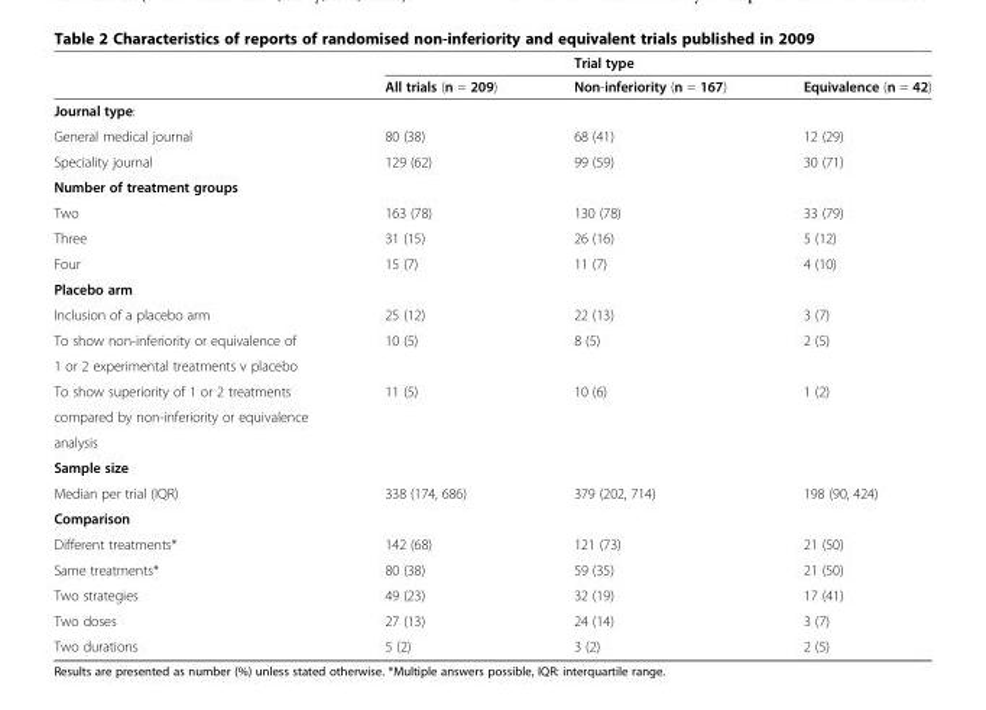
<table><thead><tr><td rowspan="2"></td><td rowspan="2">All trials (n = 209)</td><td colspan="2">Trial type</td></tr><tr><td>Non-inferiority (n = 167)</td><td>Equivalence (n = 42)</td></tr></thead><tbody><tr><td colspan="4">Journal type:</td></tr><tr><td>General medical journal</td><td>80 (38)</td><td>68 (41)</td><td>12 (29)</td></tr><tr><td>Speciality journal</td><td>129 (62)</td><td>99 (59)</td><td>30 (71)</td></tr><tr><td colspan="4">Number of treatment groups</td></tr><tr><td>Two</td><td>163 (78)</td><td>130 (78)</td><td>33 (79)</td></tr><tr><td>Three</td><td>31 (15)</td><td>26 (16)</td><td>5 (12)</td></tr><tr><td>Four</td><td>15 (7)</td><td>11 (7)</td><td>4 (10)</td></tr><tr><td colspan="4">Placebo arm</td></tr><tr><td>Inclusion of a placebo arm</td><td>25 (12)</td><td>22 (13)</td><td>3 (7)</td></tr><tr><td>To show non-inferiority or equivalence of</td><td rowspan="2">10 (5)</td><td rowspan="2">8 (5)</td><td rowspan="2">2 (5)</td></tr><tr><td>1 or 2 experimental treatments v placebo</td></tr><tr><td>To show superiority of 1 or 2 treatments</td><td rowspan="3">11 (5)</td><td rowspan="3">10 (6)</td><td rowspan="3">1 (2)</td></tr><tr><td>compared by non-inferiority or equivalence</td></tr><tr><td>analysis</td></tr><tr><td colspan="4">Sample size</td></tr><tr><td>Median per trial (IQR)</td><td>338 (174, 686)</td><td>379 (202, 714)</td><td>198 (90, 424)</td></tr><tr><td colspan="4">Comparison</td></tr><tr><td>Different treatments*</td><td>142 (68)</td><td>121 (73)</td><td>21 (50)</td></tr><tr><td>Same treatments*</td><td>80 (38)</td><td>59 (35)</td><td>21 (50)</td></tr><tr><td>Two strategies</td><td>49 (23)</td><td>32 (19)</td><td>17 (41)</td></tr><tr><td>Two doses</td><td>27 (13)</td><td>24 (14)</td><td>3 (7)</td></tr><tr><td>Two durations</td><td>5 (2)</td><td>3 (2)</td><td>2 (5)</td></tr></tbody></table>